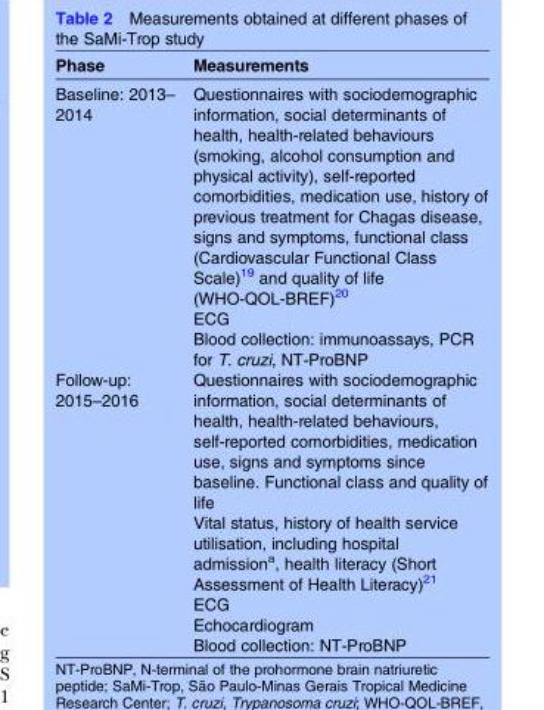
<table><thead><tr><td>Phase</td><td>Measurements</td></tr></thead><tbody><tr><td>Baseline: 2013– 2014</td><td>Questionnaires with sociodemographic information, social determinants of health, health-related behaviours (smoking, alcohol consumption and physical activity), self-reported comorbidities, medication use, history of previous treatment for Chagas disease, signs and symptoms, functional class (Cardiovascular Functional Class Scale)<sup>19</sup> and quality of life (WHO-QOL-BREF)<sup>20</sup> ECG Blood collection: immunoassays, PCR for T. cruzi, NT-ProBNP</td></tr><tr><td>Follow-up: 2015–2016</td><td>Questionnaires with sociodemographic information, social determinants of health, health-related behaviours, self-reported comorbidities, medication use, signs and symptoms since baseline. Functional class and quality of life Vital status, history of health service utilisation, including hospital admission<sup>a</sup>, health literacy (Short Assessment of Health Literacy)<sup>21</sup> ECG Echocardiogram Blood collection: NT-ProBNP</td></tr></tbody></table>